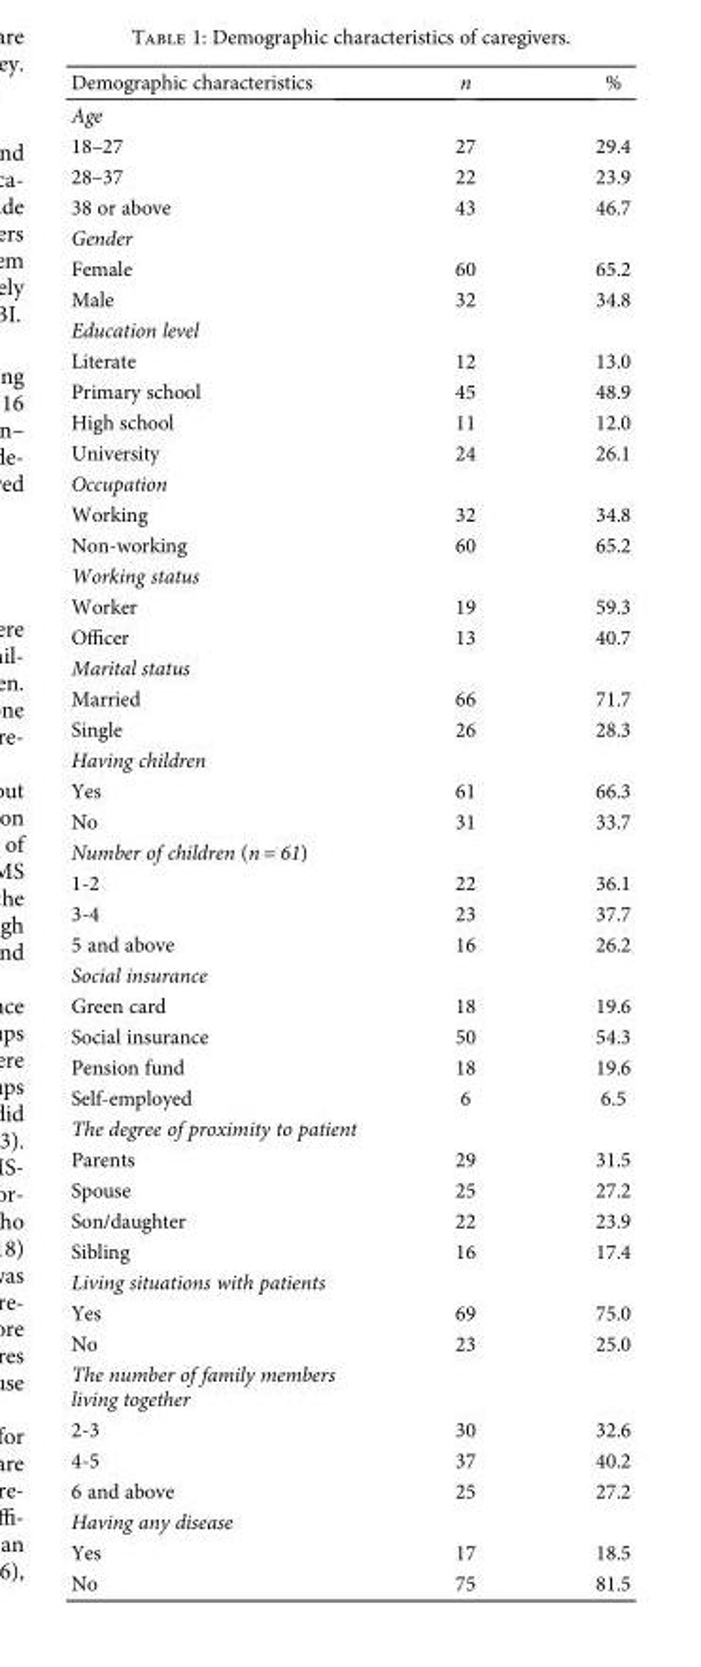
<table><thead><tr><td>Demographic characteristics</td><td>n</td><td>%</td></tr></thead><tbody><tr><td colspan="3">Age</td></tr><tr><td>18–27</td><td>27</td><td>29.4</td></tr><tr><td>28–37</td><td>22</td><td>23.9</td></tr><tr><td>38 or above</td><td>43</td><td>46.7</td></tr><tr><td colspan="3">Gender</td></tr><tr><td>Female</td><td>60</td><td>65.2</td></tr><tr><td>Male</td><td>32</td><td>34.8</td></tr><tr><td colspan="3">Education level</td></tr><tr><td>Literate</td><td>12</td><td>13.0</td></tr><tr><td>Primary school</td><td>45</td><td>48.9</td></tr><tr><td>High school</td><td>11</td><td>12.0</td></tr><tr><td>University</td><td>24</td><td>26.1</td></tr><tr><td colspan="3">Occupation</td></tr><tr><td>Working</td><td>32</td><td>34.8</td></tr><tr><td>Non-working</td><td>60</td><td>65.2</td></tr><tr><td colspan="3">Working status</td></tr><tr><td>Worker</td><td>19</td><td>59.3</td></tr><tr><td>Officer</td><td>13</td><td>40.7</td></tr><tr><td colspan="3">Marital status</td></tr><tr><td>Married</td><td>66</td><td>71.7</td></tr><tr><td>Single</td><td>26</td><td>28.3</td></tr><tr><td colspan="3">Having children</td></tr><tr><td>Yes</td><td>61</td><td>66.3</td></tr><tr><td>No</td><td>31</td><td>33.7</td></tr><tr><td colspan="3">Number of children (n = 61)</td></tr><tr><td>1-2</td><td>22</td><td>36.1</td></tr><tr><td>3-4</td><td>23</td><td>37.7</td></tr><tr><td>5 and above</td><td>16</td><td>26.2</td></tr><tr><td colspan="3">Social insurance</td></tr><tr><td>Green card</td><td>18</td><td>19.6</td></tr><tr><td>Social insurance</td><td>50</td><td>54.3</td></tr><tr><td>Pension fund</td><td>18</td><td>19.6</td></tr><tr><td>Self-employed</td><td>6</td><td>6.5</td></tr><tr><td colspan="3">The degree of proximity to patient</td></tr><tr><td>Parents</td><td>29</td><td>31.5</td></tr><tr><td>Spouse</td><td>25</td><td>27.2</td></tr><tr><td>Son/daughter</td><td>22</td><td>23.9</td></tr><tr><td>Sibling</td><td>16</td><td>17.4</td></tr><tr><td colspan="3">Living situations with patients</td></tr><tr><td>Yes</td><td>69</td><td>75.0</td></tr><tr><td>No</td><td>23</td><td>25.0</td></tr><tr><td colspan="3">The number of family members living together</td></tr><tr><td>2-3</td><td>30</td><td>32.6</td></tr><tr><td>4-5</td><td>37</td><td>40.2</td></tr><tr><td>6 and above</td><td>25</td><td>27.2</td></tr><tr><td colspan="3">Having any disease</td></tr><tr><td>Yes</td><td>17</td><td>18.5</td></tr><tr><td>No</td><td>75</td><td>81.5</td></tr></tbody></table>